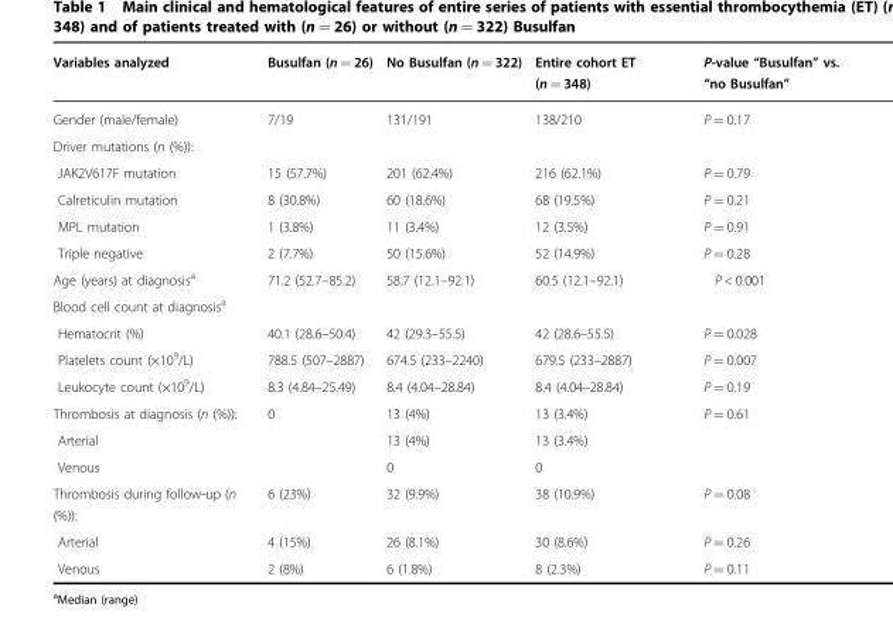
<table><thead><tr><td>Variables analyzed</td><td>Busulfan (n = 26)</td><td>No Busulfan (n = 322)</td><td>Entire cohort ET (n = 348)</td><td>P-value “Busulfan” vs. “no Busulfan”</td></tr></thead><tbody><tr><td>Gender (male/female)</td><td>7/19</td><td>131/191</td><td>138/210</td><td>P = 0.17</td></tr><tr><td colspan="5">Driver mutations (n (%)):</td></tr><tr><td>JAK2V617F mutation</td><td>15 (57.7%)</td><td>201 (62.4%)</td><td>216 (62.1%)</td><td>P = 0.79</td></tr><tr><td>Calreticulin mutation</td><td>8 (30.8%)</td><td>60 (18.6%)</td><td>68 (19.5%)</td><td>P = 0.21</td></tr><tr><td>MPL mutation</td><td>1 (3.8%)</td><td>11 (3.4%)</td><td>12 (3.5%)</td><td>P = 0.91</td></tr><tr><td>Triple negative</td><td>2 (7.7%)</td><td>50 (15.6%)</td><td>52 (14.9%)</td><td>P = 0.28</td></tr><tr><td>Age (years) at diagnosis<sup>a</sup></td><td>71.2 (52.7–85.2)</td><td>58.7 (12.1–92.1)</td><td>60.5 (12.1–92.1)</td><td>P &lt; 0.001</td></tr><tr><td colspan="5">Blood cell count at diagnosis<sup>a</sup></td></tr><tr><td>Hematocrit (%)</td><td>40.1 (28.6–50.4)</td><td>42 (29.3–55.5)</td><td>42 (28.6–55.5)</td><td>P = 0.028</td></tr><tr><td>Platelets count (×10<sup>9</sup>/L)</td><td>788.5 (507–2887)</td><td>674.5 (233–2240)</td><td>679.5 (233–2887)</td><td>P = 0.007</td></tr><tr><td>Leukocyte count (×10<sup>9</sup>/L)</td><td>8.3 (4.84–25.49)</td><td>8.4 (4.04–28.84)</td><td>8.4 (4.04–28.84)</td><td>P = 0.19</td></tr><tr><td>Thrombosis at diagnosis (n (%)):</td><td>0</td><td>13 (4%)</td><td>13 (3.4%)</td><td>P = 0.61</td></tr><tr><td>Arterial</td><td></td><td>13 (4%)</td><td>13 (3.4%)</td><td></td></tr><tr><td>Venous</td><td></td><td>0</td><td>0</td><td></td></tr><tr><td>Thrombosis during follow-up (n (%)):</td><td>6 (23%)</td><td>32 (9.9%)</td><td>38 (10.9%)</td><td>P = 0.08</td></tr><tr><td>Arterial</td><td>4 (15%)</td><td>26 (8.1%)</td><td>30 (8.6%)</td><td>P = 0.26</td></tr><tr><td>Venous</td><td>2 (8%)</td><td>6 (1.8%)</td><td>8 (2.3%)</td><td>P = 0.11</td></tr></tbody></table>